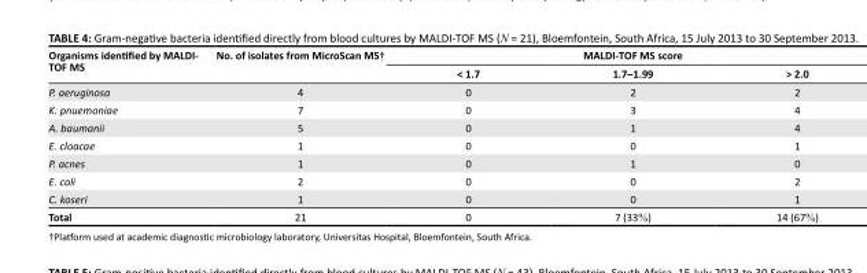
<table><thead><tr><td rowspan="2">Organisms identified by MALDI- TOF MS</td><td rowspan="2">No. of isolates from MicroScan MS†</td><td colspan="3">MALDI-TOF MS score</td></tr><tr><td>&lt; 1.7</td><td>1.7–1.99</td><td>&gt; 2.0</td></tr></thead><tbody><tr><td>P. aeruginosa</td><td>4</td><td>0</td><td>2</td><td>2</td></tr><tr><td>K. pnuemoniae</td><td>7</td><td>0</td><td>3</td><td>4</td></tr><tr><td>A. baumanii</td><td>5</td><td>0</td><td>1</td><td>4</td></tr><tr><td>E. cloacae</td><td>1</td><td>0</td><td>0</td><td>1</td></tr><tr><td>P. acnes</td><td>1</td><td>0</td><td>1</td><td>0</td></tr><tr><td>E. coli</td><td>2</td><td>0</td><td>0</td><td>2</td></tr><tr><td>C. koseri</td><td>1</td><td>0</td><td>0</td><td>1</td></tr><tr><td>Total</td><td>21</td><td>0</td><td>7 (33%)</td><td>14 (67%)</td></tr></tbody></table>